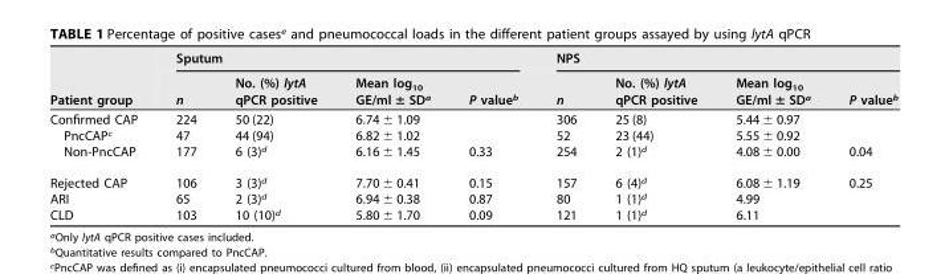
<table><thead><tr><td rowspan="2">Patient group</td><td colspan="4">Sputum</td><td colspan="4">NPS</td></tr><tr><td>n</td><td>No. (%) lytA qPCR positive</td><td>Mean log<sub>10</sub> GE/ml ± SD<sup>a</sup></td><td>P value<sup>b</sup></td><td>n</td><td>No. (%) lytA qPCR positive</td><td>Mean log<sub>10</sub> GE/ml ± SD<sup>a</sup></td><td>P value<sup>b</sup></td></tr></thead><tbody><tr><td>Confirmed CAP</td><td>224</td><td>50 (22)</td><td>6.74 ± 1.09</td><td></td><td>306</td><td>25 (8)</td><td>5.44 ± 0.97</td><td></td></tr><tr><td>PncCAP<sup>c</sup></td><td>47</td><td>44 (94)</td><td>6.82 ± 1.02</td><td></td><td>52</td><td>23 (44)</td><td>5.55 ± 0.92</td><td></td></tr><tr><td>Non-PncCAP</td><td>177</td><td>6 (3)<sup>d</sup></td><td>6.16 ± 1.45</td><td>0.33</td><td>254</td><td>2 (1)<sup>d</sup></td><td>4.08 ± 0.00</td><td>0.04</td></tr><tr><td>Rejected CAP</td><td>106</td><td>3 (3)<sup>d</sup></td><td>7.70 ± 0.41</td><td>0.15</td><td>157</td><td>6 (4)<sup>d</sup></td><td>6.08 ± 1.19</td><td>0.25</td></tr><tr><td>ARI</td><td>65</td><td>2 (3)<sup>d</sup></td><td>6.94 ± 0.38</td><td>0.87</td><td>80</td><td>1 (1)<sup>d</sup></td><td>4.99</td><td></td></tr><tr><td>CLD</td><td>103</td><td>10 (10)<sup>d</sup></td><td>5.80 ± 1.70</td><td>0.09</td><td>121</td><td>1 (1)<sup>d</sup></td><td>6.11</td><td></td></tr></tbody></table>